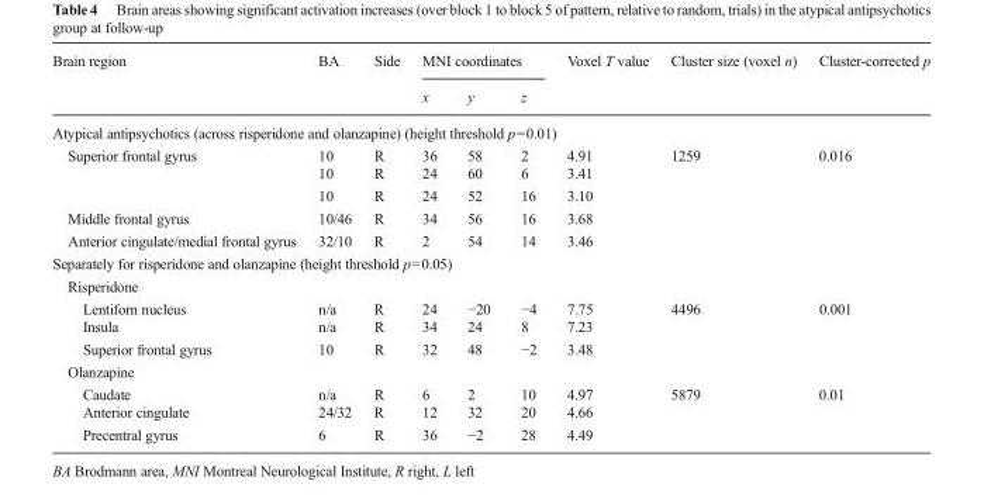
<table><thead><tr><td rowspan="2">Brain region</td><td rowspan="2">BA</td><td rowspan="2">Side</td><td colspan="3">MNI coordinates</td><td rowspan="2">Voxel T value</td><td rowspan="2">Cluster size (voxel n)</td><td rowspan="2">Cluster-corrected p</td></tr><tr><td>x</td><td>y</td><td>z</td></tr></thead><tbody><tr><td colspan="9">Atypical antipsychotics (across risperidone and olanzapine) (height threshold p=0.01)</td></tr><tr><td rowspan="3">Superior frontal gyrus</td><td>10</td><td>R</td><td>36</td><td>58</td><td>2</td><td>4.91</td><td rowspan="5">1259</td><td rowspan="5">0.016</td></tr><tr><td>10</td><td>R</td><td>24</td><td>60</td><td>6</td><td>3.41</td></tr><tr><td>10</td><td>R</td><td>24</td><td>52</td><td>16</td><td>3.10</td></tr><tr><td>Middle frontal gyrus</td><td>10/46</td><td>R</td><td>34</td><td>56</td><td>16</td><td>3.68</td></tr><tr><td>Anterior cingulate/medial frontal gyrus</td><td>32/10</td><td>R</td><td>2</td><td>54</td><td>14</td><td>3.46</td></tr><tr><td colspan="9">Separately for risperidone and olanzapine (height threshold p=0.05)</td></tr><tr><td colspan="9">Risperidone</td></tr><tr><td>Lentiforn nucleus</td><td>n/a</td><td>R</td><td>24</td><td>−20</td><td>−4</td><td>7.75</td><td rowspan="3">4496</td><td rowspan="3">0.001</td></tr><tr><td>Insula</td><td>n/a</td><td>R</td><td>34</td><td>24</td><td>8</td><td>7.23</td></tr><tr><td>Superior frontal gyrus</td><td>10</td><td>R</td><td>32</td><td>48</td><td>−2</td><td>3.48</td></tr><tr><td colspan="9">Olanzapine</td></tr><tr><td>Caudate</td><td>n/a</td><td>R</td><td>6</td><td>2</td><td>10</td><td>4.97</td><td rowspan="3">5879</td><td rowspan="3">0.01</td></tr><tr><td>Anterior cingulate</td><td>24/32</td><td>R</td><td>12</td><td>32</td><td>20</td><td>4.66</td></tr><tr><td>Precentral gyrus</td><td>6</td><td>R</td><td>36</td><td>−2</td><td>28</td><td>4.49</td></tr></tbody></table>